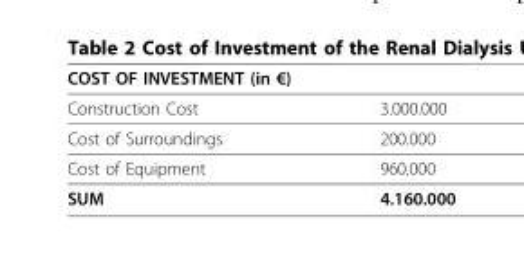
<table><thead><tr><td colspan="2">COST OF INVESTMENT (in €)</td></tr><tr><td>Construction Cost</td><td>3.000.000</td></tr></thead><tbody><tr><td>Cost of Surroundings</td><td>200.000</td></tr><tr><td>Cost of Equipment</td><td>960.000</td></tr><tr><td>SUM</td><td>4.160.000</td></tr></tbody></table>